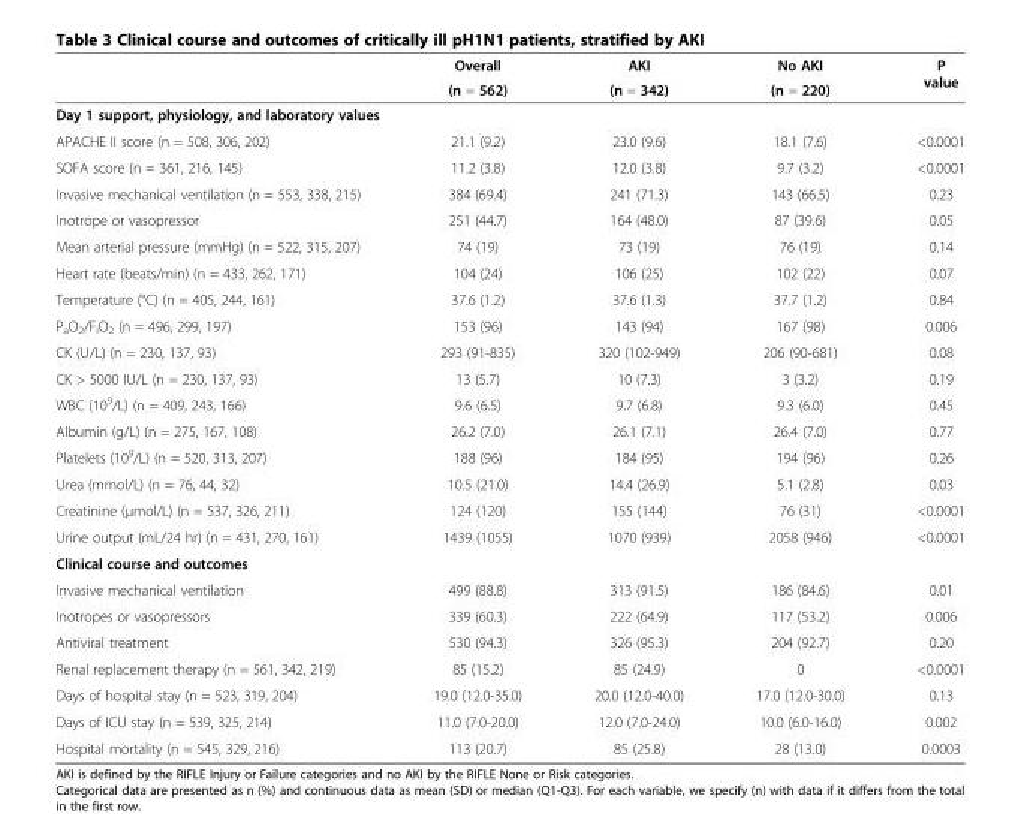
<table><thead><tr><td rowspan="2"></td><td rowspan="2">Overall (n = 562)</td><td rowspan="2">AKI (n = 342)</td><td rowspan="2">No AKI (n = 220)</td><td rowspan="2">P value</td></tr><tr></tr></thead><tbody><tr><td colspan="5">Day 1 support, physiology, and laboratory values</td></tr><tr><td>APACHE II score (n = 508, 306, 202)</td><td>21.1 (9.2)</td><td>23.0 (9.6)</td><td>18.1 (7.6)</td><td>&lt;0.0001</td></tr><tr><td>SOFA score (n = 361, 216, 145)</td><td>11.2 (3.8)</td><td>12.0 (3.8)</td><td>9.7 (3.2)</td><td>&lt;0.0001</td></tr><tr><td>Invasive mechanical ventilation (n = 553, 338, 215)</td><td>384 (69.4)</td><td>241 (71.3)</td><td>143 (66.5)</td><td>0.23</td></tr><tr><td>Inotrope or vasopressor</td><td>251 (44.7)</td><td>164 (48.0)</td><td>87 (39.6)</td><td>0.05</td></tr><tr><td>Mean arterial pressure (mmHg) (n = 522, 315, 207)</td><td>74 (19)</td><td>73 (19)</td><td>76 (19)</td><td>0.14</td></tr><tr><td>Heart rate (beats/min) (n = 433, 262, 171)</td><td>104 (24)</td><td>106 (25)</td><td>102 (22)</td><td>0.07</td></tr><tr><td>Temperature (°C) (n = 405, 244, 161)</td><td>37.6 (1.2)</td><td>37.6 (1.3)</td><td>37.7 (1.2)</td><td>0.84</td></tr><tr><td>P<sub>a</sub>O<sub>2</sub>/F<sub>i</sub>O<sub>2</sub> (n = 496, 299, 197)</td><td>153 (96)</td><td>143 (94)</td><td>167 (98)</td><td>0.006</td></tr><tr><td>CK (U/L) (n = 230, 137, 93)</td><td>293 (91-835)</td><td>320 (102-949)</td><td>206 (90-681)</td><td>0.08</td></tr><tr><td>CK &gt; 5000 IU/L (n = 230, 137, 93)</td><td>13 (5.7)</td><td>10 (7.3)</td><td>3 (3.2)</td><td>0.19</td></tr><tr><td>WBC (10<sup>9</sup>/L) (n = 409, 243, 166)</td><td>9.6 (6.5)</td><td>9.7 (6.8)</td><td>9.3 (6.0)</td><td>0.45</td></tr><tr><td>Albumin (g/L) (n = 275, 167, 108)</td><td>26.2 (7.0)</td><td>26.1 (7.1)</td><td>26.4 (7.0)</td><td>0.77</td></tr><tr><td>Platelets (10<sup>9</sup>/L) (n = 520, 313, 207)</td><td>188 (96)</td><td>184 (95)</td><td>194 (96)</td><td>0.26</td></tr><tr><td>Urea (mmol/L) (n = 76, 44, 32)</td><td>10.5 (21.0)</td><td>14.4 (26.9)</td><td>5.1 (2.8)</td><td>0.03</td></tr><tr><td>Creatinine (μmol/L) (n = 537, 326, 211)</td><td>124 (120)</td><td>155 (144)</td><td>76 (31)</td><td>&lt;0.0001</td></tr><tr><td>Urine output (mL/24 hr) (n = 431, 270, 161)</td><td>1439 (1055)</td><td>1070 (939)</td><td>2058 (946)</td><td>&lt;0.0001</td></tr><tr><td colspan="5">Clinical course and outcomes</td></tr><tr><td>Invasive mechanical ventilation</td><td>499 (88.8)</td><td>313 (91.5)</td><td>186 (84.6)</td><td>0.01</td></tr><tr><td>Inotropes or vasopressors</td><td>339 (60.3)</td><td>222 (64.9)</td><td>117 (53.2)</td><td>0.006</td></tr><tr><td>Antiviral treatment</td><td>530 (94.3)</td><td>326 (95.3)</td><td>204 (92.7)</td><td>0.20</td></tr><tr><td>Renal replacement therapy (n = 561, 342, 219)</td><td>85 (15.2)</td><td>85 (24.9)</td><td>0</td><td>&lt;0.0001</td></tr><tr><td>Days of hospital stay (n = 523, 319, 204)</td><td>19.0 (12.0-35.0)</td><td>20.0 (12.0-40.0)</td><td>17.0 (12.0-30.0)</td><td>0.13</td></tr><tr><td>Days of ICU stay (n = 539, 325, 214)</td><td>11.0 (7.0-20.0)</td><td>12.0 (7.0-24.0)</td><td>10.0 (6.0-16.0)</td><td>0.002</td></tr><tr><td>Hospital mortality (n = 545, 329, 216)</td><td>113 (20.7)</td><td>85 (25.8)</td><td>28 (13.0)</td><td>0.0003</td></tr></tbody></table>